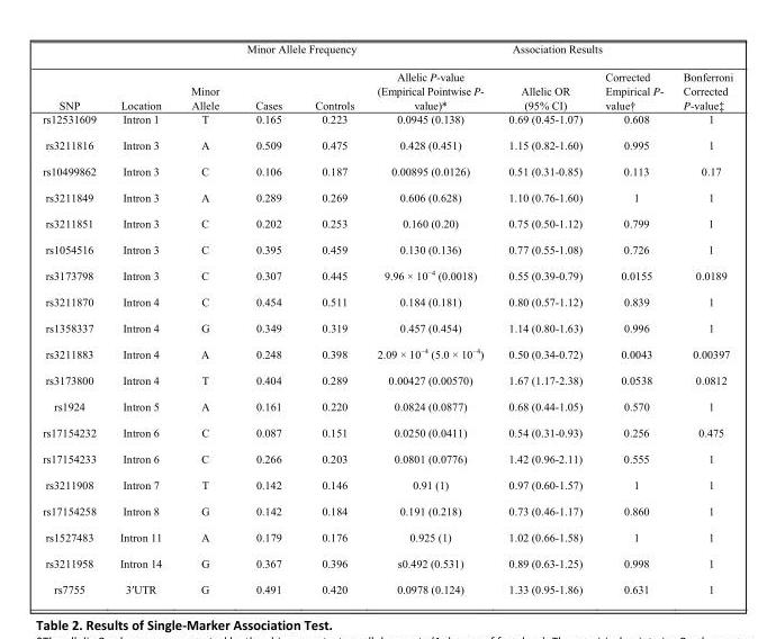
<table><thead><tr><td rowspan="2">SNP</td><td rowspan="2">Location</td><td rowspan="2">Minor Allele</td><td colspan="2">Minor Allele Frequency</td><td colspan="4">Association Results</td></tr><tr><td>Cases</td><td>Controls</td><td>Allelic P-value (Empirical Pointwise P- value)*</td><td>Allelic OR (95% CI)</td><td>Corrected Empirical P- value†</td><td>Bonferroni Corrected P-value‡</td></tr></thead><tbody><tr><td>rs12531609</td><td>Intron 1</td><td>T</td><td>0.165</td><td>0.223</td><td>0.0945 (0.138)</td><td>0.69 (0.45-1.07)</td><td>0.608</td><td>1</td></tr><tr><td>rs3211816</td><td>Intron 3</td><td>A</td><td>0.509</td><td>0.475</td><td>0.428 (0.451)</td><td>1.15 (0.82-1.60)</td><td>0.995</td><td>1</td></tr><tr><td>rs10499862</td><td>Intron 3</td><td>C</td><td>0.106</td><td>0.187</td><td>0.00895 (0.0126)</td><td>0.51 (0.31-0.85)</td><td>0.113</td><td>0.17</td></tr><tr><td>rs3211849</td><td>Intron 3</td><td>A</td><td>0.289</td><td>0.269</td><td>0.606 (0.628)</td><td>1.10 (0.76-1.60)</td><td>1</td><td>1</td></tr><tr><td>rs3211851</td><td>Intron 3</td><td>C</td><td>0.202</td><td>0.253</td><td>0.160 (0.20)</td><td>0.75 (0.50-1.12)</td><td>0.799</td><td>1</td></tr><tr><td>rs1054516</td><td>Intron 3</td><td>C</td><td>0.395</td><td>0.459</td><td>0.130 (0.136)</td><td>0.77 (0.55-1.08)</td><td>0.726</td><td>1</td></tr><tr><td>rs3173798</td><td>Intron 3</td><td>C</td><td>0.307</td><td>0.445</td><td>9.96 × 10<sup>−4</sup> (0.0018)</td><td>0.55 (0.39-0.79)</td><td>0.0155</td><td>0.0189</td></tr><tr><td>rs3211870</td><td>Intron 4</td><td>C</td><td>0.454</td><td>0.511</td><td>0.184 (0.181)</td><td>0.80 (0.57-1.12)</td><td>0.839</td><td>1</td></tr><tr><td>rs1358337</td><td>Intron 4</td><td>G</td><td>0.349</td><td>0.319</td><td>0.457 (0.454)</td><td>1.14 (0.80-1.63)</td><td>0.996</td><td>1</td></tr><tr><td>rs3211883</td><td>Intron 4</td><td>A</td><td>0.248</td><td>0.398</td><td>2.09 × 10<sup>−4</sup> (5.0 × 10<sup>−4</sup>)</td><td>0.50 (0.34-0.72)</td><td>0.0043</td><td>0.00397</td></tr><tr><td>rs3173800</td><td>Intron 4</td><td>T</td><td>0.404</td><td>0.289</td><td>0.00427 (0.00570)</td><td>1.67 (1.17-2.38)</td><td>0.0538</td><td>0.0812</td></tr><tr><td>rs1924</td><td>Intron 5</td><td>A</td><td>0.161</td><td>0.220</td><td>0.0824 (0.0877)</td><td>0.68 (0.44-1.05)</td><td>0.570</td><td>1</td></tr><tr><td>rs17154232</td><td>Intron 6</td><td>C</td><td>0.087</td><td>0.151</td><td>0.0250 (0.0411)</td><td>0.54 (0.31-0.93)</td><td>0.256</td><td>0.475</td></tr><tr><td>rs17154233</td><td>Intron 6</td><td>C</td><td>0.266</td><td>0.203</td><td>0.0801 (0.0776)</td><td>1.42 (0.96-2.11)</td><td>0.555</td><td>1</td></tr><tr><td>rs3211908</td><td>Intron 7</td><td>T</td><td>0.142</td><td>0.146</td><td>0.91 (1)</td><td>0.97 (0.60-1.57)</td><td>1</td><td>1</td></tr><tr><td>rs17154258</td><td>Intron 8</td><td>G</td><td>0.142</td><td>0.184</td><td>0.191 (0.218)</td><td>0.73 (0.46-1.17)</td><td>0.860</td><td>1</td></tr><tr><td>rs1527483</td><td>Intron 11</td><td>A</td><td>0.179</td><td>0.176</td><td>0.925 (1)</td><td>1.02 (0.66-1.58)</td><td>1</td><td>1</td></tr><tr><td>rs3211958</td><td>Intron 14</td><td>G</td><td>0.367</td><td>0.396</td><td>s0.492 (0.531)</td><td>0.89 (0.63-1.25)</td><td>0.998</td><td>1</td></tr><tr><td>rs7755</td><td>3′UTR</td><td>G</td><td>0.491</td><td>0.420</td><td>0.0978 (0.124)</td><td>1.33 (0.95-1.86)</td><td>0.631</td><td>1</td></tr></tbody></table>